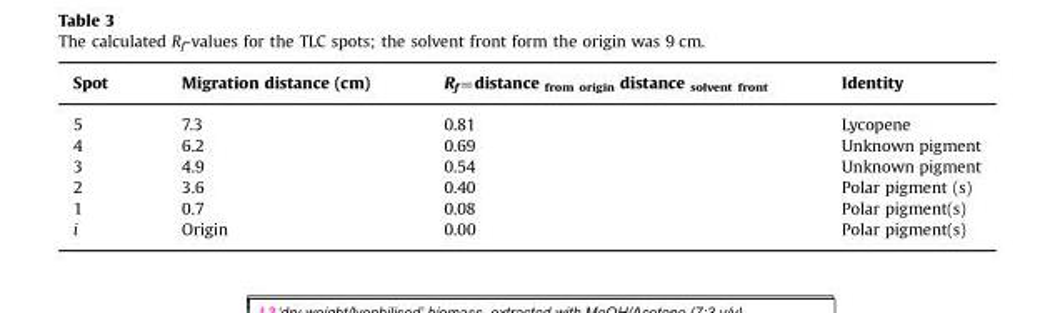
<table><thead><tr><td>Spot</td><td>Migration distance (cm)</td><td>R<sub>f</sub>=distance <sub>from origin</sub> distance <sub>solvent front</sub></td><td>Identity</td></tr></thead><tbody><tr><td>5</td><td>7.3</td><td>0.81</td><td>Lycopene</td></tr><tr><td>4</td><td>6.2</td><td>0.69</td><td>Unknown pigment</td></tr><tr><td>3</td><td>4.9</td><td>0.54</td><td>Unknown pigment</td></tr><tr><td>2</td><td>3.6</td><td>0.40</td><td>Polar pigment (s)</td></tr><tr><td>1</td><td>0.7</td><td>0.08</td><td>Polar pigment(s)</td></tr><tr><td>i</td><td>Origin</td><td>0.00</td><td>Polar pigment(s)</td></tr></tbody></table>